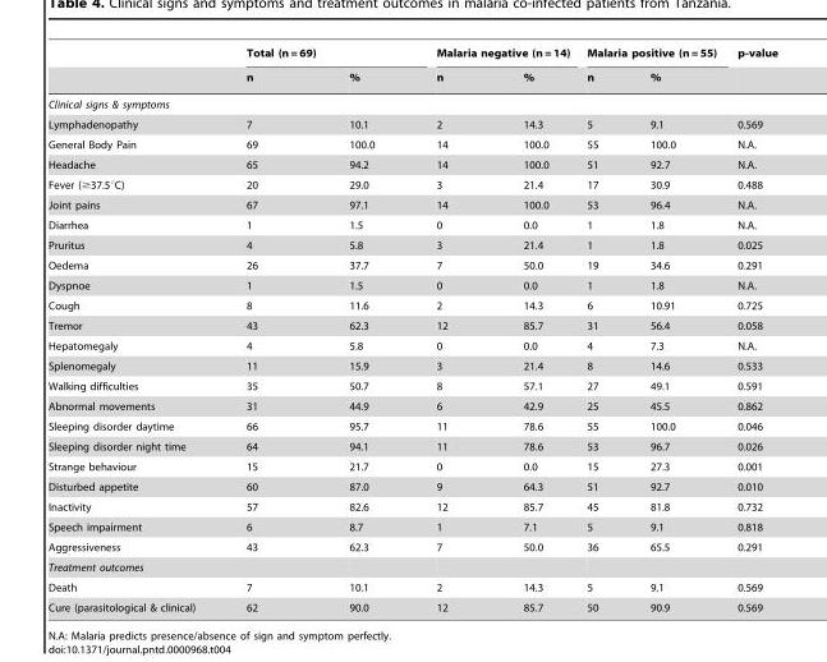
<table><thead><tr><td rowspan="2"></td><td colspan="2">Total (n = 69)</td><td colspan="2">Malaria negative (n = 14)</td><td colspan="2">Malaria positive (n = 55)</td><td rowspan="2">p-value</td></tr><tr><td>n</td><td>%</td><td>n</td><td>%</td><td>n</td><td>%</td></tr></thead><tbody><tr><td colspan="8">Clinical signs &amp; symptoms</td></tr><tr><td>Lymphadenopathy</td><td>7</td><td>10.1</td><td>2</td><td>14.3</td><td>5</td><td>9.1</td><td>0.569</td></tr><tr><td>General Body Pain</td><td>69</td><td>100.0</td><td>14</td><td>100.0</td><td>55</td><td>100.0</td><td>N.A.</td></tr><tr><td>Headache</td><td>65</td><td>94.2</td><td>14</td><td>100.0</td><td>51</td><td>92.7</td><td>N.A.</td></tr><tr><td>Fever (≥37.5°C)</td><td>20</td><td>29.0</td><td>3</td><td>21.4</td><td>17</td><td>30.9</td><td>0.488</td></tr><tr><td>Joint pains</td><td>67</td><td>97.1</td><td>14</td><td>100.0</td><td>53</td><td>96.4</td><td>N.A.</td></tr><tr><td>Diarrhea</td><td>1</td><td>1.5</td><td>0</td><td>0.0</td><td>1</td><td>1.8</td><td>N.A.</td></tr><tr><td>Pruritus</td><td>4</td><td>5.8</td><td>3</td><td>21.4</td><td>1</td><td>1.8</td><td>0.025</td></tr><tr><td>Oedema</td><td>26</td><td>37.7</td><td>7</td><td>50.0</td><td>19</td><td>34.6</td><td>0.291</td></tr><tr><td>Dyspnoe</td><td>1</td><td>1.5</td><td>0</td><td>0.0</td><td>1</td><td>1.8</td><td>N.A.</td></tr><tr><td>Cough</td><td>8</td><td>11.6</td><td>2</td><td>14.3</td><td>6</td><td>10.91</td><td>0.725</td></tr><tr><td>Tremor</td><td>43</td><td>62.3</td><td>12</td><td>85.7</td><td>31</td><td>56.4</td><td>0.058</td></tr><tr><td>Hepatomegaly</td><td>4</td><td>5.8</td><td>0</td><td>0.0</td><td>4</td><td>7.3</td><td>N.A.</td></tr><tr><td>Splenomegaly</td><td>11</td><td>15.9</td><td>3</td><td>21.4</td><td>8</td><td>14.6</td><td>0.533</td></tr><tr><td>Walking difficulties</td><td>35</td><td>50.7</td><td>8</td><td>57.1</td><td>27</td><td>49.1</td><td>0.591</td></tr><tr><td>Abnormal movements</td><td>31</td><td>44.9</td><td>6</td><td>42.9</td><td>25</td><td>45.5</td><td>0.862</td></tr><tr><td>Sleeping disorder daytime</td><td>66</td><td>95.7</td><td>11</td><td>78.6</td><td>55</td><td>100.0</td><td>0.046</td></tr><tr><td>Sleeping disorder night time</td><td>64</td><td>94.1</td><td>11</td><td>78.6</td><td>53</td><td>96.7</td><td>0.026</td></tr><tr><td>Strange behaviour</td><td>15</td><td>21.7</td><td>0</td><td>0.0</td><td>15</td><td>27.3</td><td>0.001</td></tr><tr><td>Disturbed appetite</td><td>60</td><td>87.0</td><td>9</td><td>64.3</td><td>51</td><td>92.7</td><td>0.010</td></tr><tr><td>Inactivity</td><td>57</td><td>82.6</td><td>12</td><td>85.7</td><td>45</td><td>81.8</td><td>0.732</td></tr><tr><td>Speech impairment</td><td>6</td><td>8.7</td><td>1</td><td>7.1</td><td>5</td><td>9.1</td><td>0.818</td></tr><tr><td>Aggressiveness</td><td>43</td><td>62.3</td><td>7</td><td>50.0</td><td>36</td><td>65.5</td><td>0.291</td></tr><tr><td colspan="8">Treatment outcomes</td></tr><tr><td>Death</td><td>7</td><td>10.1</td><td>2</td><td>14.3</td><td>5</td><td>9.1</td><td>0.569</td></tr><tr><td>Cure (parasitological &amp; clinical)</td><td>62</td><td>90.0</td><td>12</td><td>85.7</td><td>50</td><td>90.9</td><td>0.569</td></tr></tbody></table>